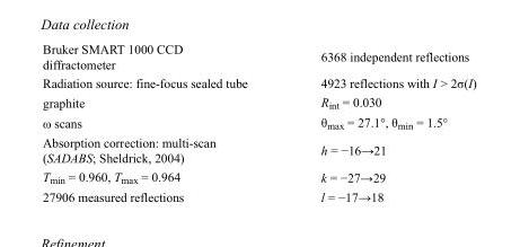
<table><tbody><tr><td>Bruker SMART 1000 CCD diffractometer</td><td>6368 independent reflections</td></tr><tr><td>Radiation source: fine-focus sealed tube</td><td>4923 reflections with I &gt; 2σ(I)</td></tr><tr><td>graphite</td><td>R<sub>int</sub> = 0.030</td></tr><tr><td>ω scans</td><td>θ<sub>max</sub> = 27.1°, θ<sub>min</sub> = 1.5°</td></tr><tr><td>Absorption correction: multi-scan (SADABS; Sheldrick, 2004)</td><td>h = −16→21</td></tr><tr><td>T<sub>min</sub> = 0.960, T<sub>max</sub> = 0.964</td><td>k = −27→29</td></tr><tr><td>27906 measured reflections</td><td>l = −17→18</td></tr></tbody></table>